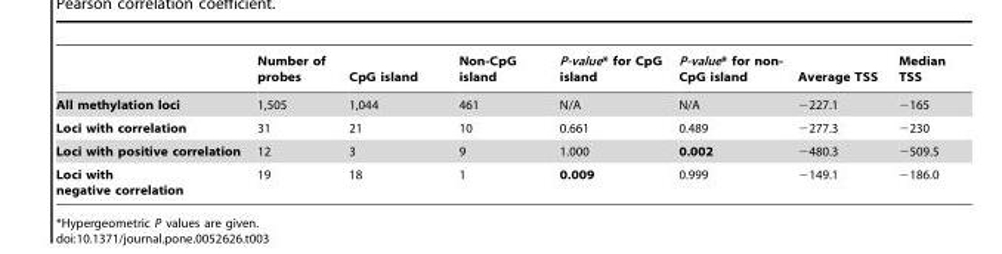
<table><thead><tr><td></td><td>Number of probes</td><td>CpG island</td><td>Non-CpG island</td><td>P-value* for CpG island</td><td>P-value* for non- CpG island</td><td>Average TSS</td><td>Median TSS</td></tr></thead><tbody><tr><td>All methylation loci</td><td>1,505</td><td>1,044</td><td>461</td><td>N/A</td><td>N/A</td><td>−227.1</td><td>−165</td></tr><tr><td>Loci with correlation</td><td>31</td><td>21</td><td>10</td><td>0.661</td><td>0.489</td><td>−277.3</td><td>−230</td></tr><tr><td>Loci with positive correlation</td><td>12</td><td>3</td><td>9</td><td>1.000</td><td>0.002</td><td>−480.3</td><td>−509.5</td></tr><tr><td>Loci with negative correlation</td><td>19</td><td>18</td><td>1</td><td>0.009</td><td>0.999</td><td>−149.1</td><td>−186.0</td></tr></tbody></table>